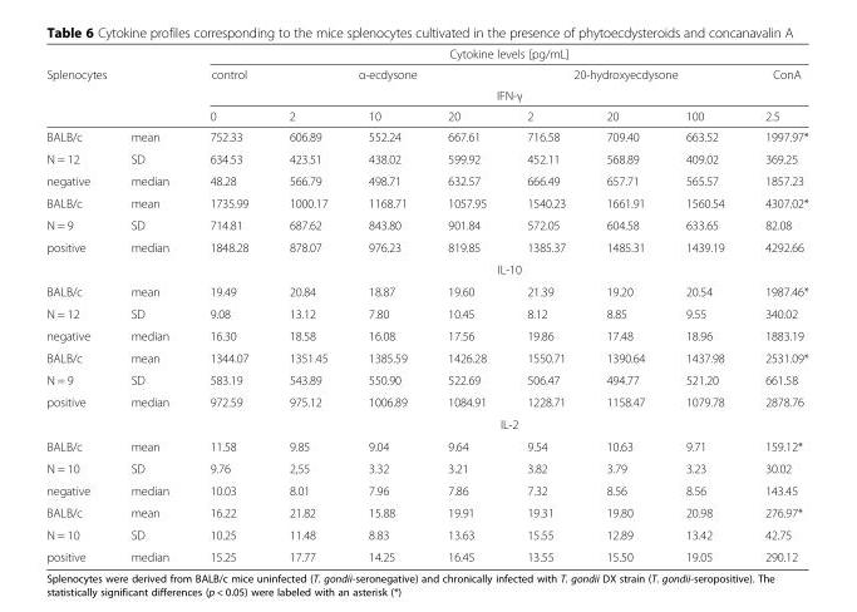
<table><thead><tr><td></td><td></td><td colspan="8">Cytokine levels [pg/mL]</td></tr><tr><td rowspan="3" colspan="2">Splenocytes</td><td>control</td><td colspan="3">α-ecdysone</td><td colspan="3">20-hydroxyecdysone</td><td>ConA</td></tr><tr><td colspan="8">IFN-γ</td></tr><tr><td>0</td><td>2</td><td>10</td><td>20</td><td>2</td><td>20</td><td>100</td><td>2.5</td></tr></thead><tbody><tr><td>BALB/c</td><td>mean</td><td>752.33</td><td>606.89</td><td>552.24</td><td>667.61</td><td>716.58</td><td>709.40</td><td>663.52</td><td>1997.97*</td></tr><tr><td>N = 12</td><td>SD</td><td>634.53</td><td>423.51</td><td>438.02</td><td>599.92</td><td>452.11</td><td>568.89</td><td>409.02</td><td>369.25</td></tr><tr><td>negative</td><td>median</td><td>48.28</td><td>566.79</td><td>498.71</td><td>632.57</td><td>666.49</td><td>657.71</td><td>565.57</td><td>1857.23</td></tr><tr><td>BALB/c</td><td>mean</td><td>1735.99</td><td>1000.17</td><td>1168.71</td><td>1057.95</td><td>1540.23</td><td>1661.91</td><td>1560.54</td><td>4307.02*</td></tr><tr><td>N = 9</td><td>SD</td><td>714.81</td><td>687.62</td><td>843.80</td><td>901.84</td><td>572.05</td><td>604.58</td><td>633.65</td><td>82.08</td></tr><tr><td>positive</td><td>median</td><td>1848.28</td><td>878.07</td><td>976.23</td><td>819.85</td><td>1385.37</td><td>1485.31</td><td>1439.19</td><td>4292.66</td></tr><tr><td colspan="2"></td><td colspan="8">IL-10</td></tr><tr><td>BALB/c</td><td>mean</td><td>19.49</td><td>20.84</td><td>18.87</td><td>19.60</td><td>21.39</td><td>19.20</td><td>20.54</td><td>1987.46*</td></tr><tr><td>N = 12</td><td>SD</td><td>9.08</td><td>13.12</td><td>7.80</td><td>10.45</td><td>8.12</td><td>8.85</td><td>9.55</td><td>340.02</td></tr><tr><td>negative</td><td>median</td><td>16.30</td><td>18.58</td><td>16.08</td><td>17.56</td><td>19.86</td><td>17.48</td><td>18.96</td><td>1883.19</td></tr><tr><td>BALB/c</td><td>mean</td><td>1344.07</td><td>1351.45</td><td>1385.59</td><td>1426.28</td><td>1550.71</td><td>1390.64</td><td>1437.98</td><td>2531.09*</td></tr><tr><td>N = 9</td><td>SD</td><td>583.19</td><td>543.89</td><td>550.90</td><td>522.69</td><td>506.47</td><td>494.77</td><td>521.20</td><td>661.58</td></tr><tr><td>positive</td><td>median</td><td>972.59</td><td>975.12</td><td>1006.89</td><td>1084.91</td><td>1228.71</td><td>1158.47</td><td>1079.78</td><td>2878.76</td></tr><tr><td colspan="2"></td><td colspan="8">IL-2</td></tr><tr><td>BALB/c</td><td>mean</td><td>11.58</td><td>9.85</td><td>9.04</td><td>9.64</td><td>9.54</td><td>10.63</td><td>9.71</td><td>159.12*</td></tr><tr><td>N = 10</td><td>SD</td><td>9.76</td><td>2,55</td><td>3.32</td><td>3.21</td><td>3.82</td><td>3.79</td><td>3.23</td><td>30.02</td></tr><tr><td>negative</td><td>median</td><td>10.03</td><td>8.01</td><td>7.96</td><td>7.86</td><td>7.32</td><td>8.56</td><td>8.56</td><td>143.45</td></tr><tr><td>BALB/c</td><td>mean</td><td>16.22</td><td>21.82</td><td>15.88</td><td>19.91</td><td>19.31</td><td>19.80</td><td>20.98</td><td>276.97*</td></tr><tr><td>N = 10</td><td>SD</td><td>10.25</td><td>11.48</td><td>8.83</td><td>13.63</td><td>15.55</td><td>12.89</td><td>13.42</td><td>42.75</td></tr><tr><td>positive</td><td>median</td><td>15.25</td><td>17.77</td><td>14.25</td><td>16.45</td><td>13.55</td><td>15.50</td><td>19.05</td><td>290.12</td></tr></tbody></table>